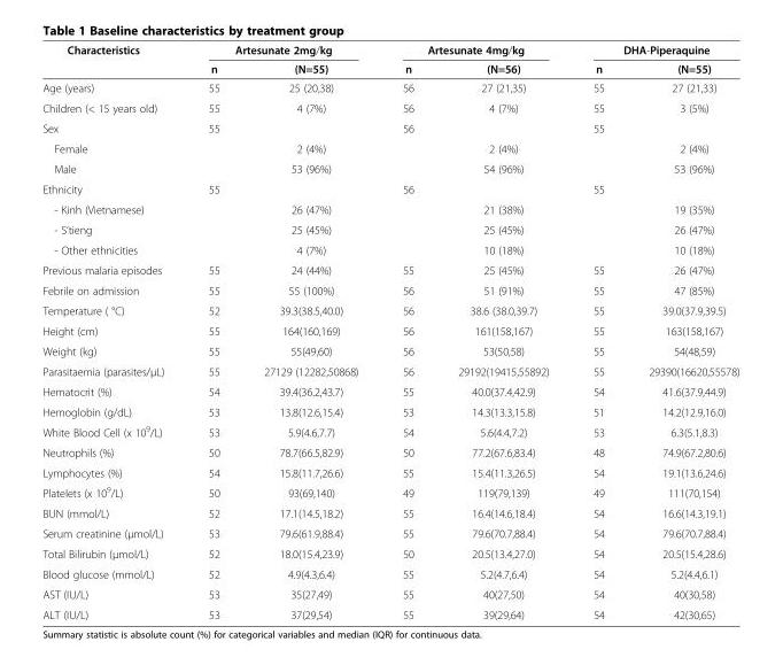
<table><thead><tr><td rowspan="2">Characteristics</td><td colspan="2">Artesunate 2mg/kg</td><td colspan="2">Artesunate 4mg/kg</td><td colspan="2">DHA-Piperaquine</td></tr><tr><td>n</td><td>(N=55)</td><td>n</td><td>(N=56)</td><td>n</td><td>(N=55)</td></tr></thead><tbody><tr><td>Age (years)</td><td>55</td><td>25 (20,38)</td><td>56</td><td>27 (21,35)</td><td>55</td><td>27 (21,33)</td></tr><tr><td>Children (&lt; 15 years old)</td><td>55</td><td>4 (7%)</td><td>56</td><td>4 (7%)</td><td>55</td><td>3 (5%)</td></tr><tr><td>Sex</td><td>55</td><td></td><td>56</td><td></td><td>55</td><td></td></tr><tr><td>Female</td><td></td><td>2 (4%)</td><td></td><td>2 (4%)</td><td></td><td>2 (4%)</td></tr><tr><td>Male</td><td></td><td>53 (96%)</td><td></td><td>54 (96%)</td><td></td><td>53 (96%)</td></tr><tr><td>Ethnicity</td><td>55</td><td></td><td>56</td><td></td><td>55</td><td></td></tr><tr><td>- Kinh (Vietnamese)</td><td></td><td>26 (47%)</td><td></td><td>21 (38%)</td><td></td><td>19 (35%)</td></tr><tr><td>- S’tieng</td><td></td><td>25 (45%)</td><td></td><td>25 (45%)</td><td></td><td>26 (47%)</td></tr><tr><td>- Other ethnicities</td><td></td><td>4 (7%)</td><td></td><td>10 (18%)</td><td></td><td>10 (18%)</td></tr><tr><td>Previous malaria episodes</td><td>55</td><td>24 (44%)</td><td>55</td><td>25 (45%)</td><td>55</td><td>26 (47%)</td></tr><tr><td>Febrile on admission</td><td>55</td><td>55 (100%)</td><td>56</td><td>51 (91%)</td><td>55</td><td>47 (85%)</td></tr><tr><td>Temperature ( °C)</td><td>52</td><td>39.3(38.5,40.0)</td><td>56</td><td>38.6 (38.0,39.7)</td><td>55</td><td>39.0(37.9,39.5)</td></tr><tr><td>Height (cm)</td><td>55</td><td>164(160,169)</td><td>56</td><td>161(158,167)</td><td>55</td><td>163(158,167)</td></tr><tr><td>Weight (kg)</td><td>55</td><td>55(49,60)</td><td>56</td><td>53(50,58)</td><td>55</td><td>54(48,59)</td></tr><tr><td>Parasitaemia (parasites/μL)</td><td>55</td><td>27129 (12282,50868)</td><td>56</td><td>29192(19415,55892)</td><td>55</td><td>29390(16620,55578)</td></tr><tr><td>Hematocrit (%)</td><td>54</td><td>39.4(36.2,43.7)</td><td>55</td><td>40.0(37.4,42.9)</td><td>54</td><td>41.6(37.9,44.9)</td></tr><tr><td>Hemoglobin (g/dL)</td><td>53</td><td>13.8(12.6,15.4)</td><td>53</td><td>14.3(13.3,15.8)</td><td>51</td><td>14.2(12.9,16.0)</td></tr><tr><td>White Blood Cell (x 10<sup>9</sup>/L)</td><td>53</td><td>5.9(4.6,7.7)</td><td>54</td><td>5.6(4.4,7.2)</td><td>53</td><td>6.3(5.1,8.3)</td></tr><tr><td>Neutrophils (%)</td><td>50</td><td>78.7(66.5,82.9)</td><td>50</td><td>77.2(67.6,83.4)</td><td>48</td><td>74.9(67.2,80.6)</td></tr><tr><td>Lymphocytes (%)</td><td>54</td><td>15.8(11.7,26.6)</td><td>55</td><td>15.4(11.3,26.5)</td><td>54</td><td>19.1(13.6,24.6)</td></tr><tr><td>Platelets (x 10<sup>9</sup>/L)</td><td>50</td><td>93(69,140)</td><td>49</td><td>119(79,139)</td><td>49</td><td>111(70,154)</td></tr><tr><td>BUN (mmol/L)</td><td>52</td><td>17.1(14.5,18.2)</td><td>55</td><td>16.4(14.6,18.4)</td><td>54</td><td>16.6(14.3,19.1)</td></tr><tr><td>Serum creatinine (μmol/L)</td><td>53</td><td>79.6(61.9,88.4)</td><td>55</td><td>79.6(70.7,88.4)</td><td>54</td><td>79.6(70.7,88.4)</td></tr><tr><td>Total Bilirubin (μmol/L)</td><td>52</td><td>18.0(15.4,23.9)</td><td>50</td><td>20.5(13.4,27.0)</td><td>54</td><td>20.5(15.4,28.6)</td></tr><tr><td>Blood glucose (mmol/L)</td><td>52</td><td>4.9(4.3,6.4)</td><td>55</td><td>5.2(4.7,6.4)</td><td>54</td><td>5.2(4.4,6.1)</td></tr><tr><td>AST (IU/L)</td><td>53</td><td>35(27,49)</td><td>55</td><td>40(27,50)</td><td>54</td><td>40(30,58)</td></tr><tr><td>ALT (IU/L)</td><td>53</td><td>37(29,54)</td><td>55</td><td>39(29,64)</td><td>54</td><td>42(30,65)</td></tr></tbody></table>